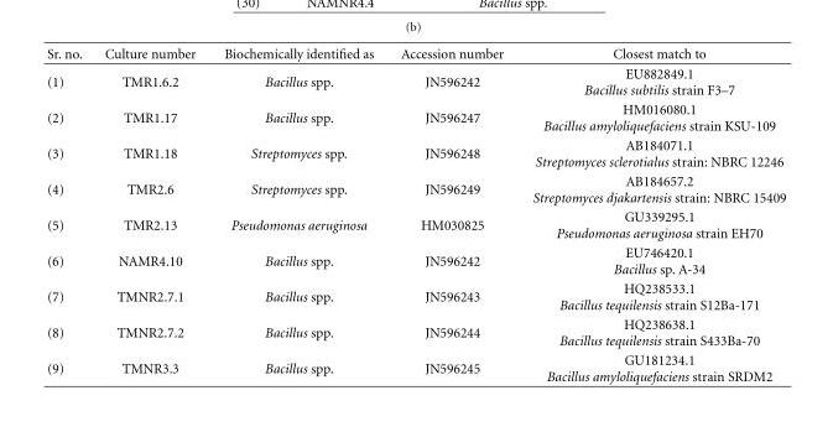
<table><thead><tr><td>Sr. no.</td><td>Culture number</td><td>Biochemically identified as</td><td>Accession number</td><td>Closest match to</td></tr></thead><tbody><tr><td>(1)</td><td>TMR1.6.2</td><td>Bacillus spp.</td><td>JN596242</td><td>EU882849.1 Bacillus subtilis strain F3–7</td></tr><tr><td>(2)</td><td>TMR1.17</td><td>Bacillus spp.</td><td>JN596247</td><td>HM016080.1 Bacillus amyloliquefaciens strain KSU-109</td></tr><tr><td>(3)</td><td>TMR1.18</td><td>Streptomyces spp.</td><td>JN596248</td><td>AB184071.1 Streptomyces sclerotialus strain: NBRC 12246</td></tr><tr><td>(4)</td><td>TMR2.6</td><td>Streptomyces spp.</td><td>JN596249</td><td>AB184657.2 Streptomyces djakartensis strain: NBRC 15409</td></tr><tr><td>(5)</td><td>TMR2.13</td><td>Pseudomonas aeruginosa</td><td>HM030825</td><td>GU339295.1 Pseudomonas aeruginosa strain EH70</td></tr><tr><td>(6)</td><td>NAMR4.10</td><td>Bacillus spp.</td><td>JN596242</td><td>EU746420.1 Bacillus sp. A-34</td></tr><tr><td>(7)</td><td>TMNR2.7.1</td><td>Bacillus spp.</td><td>JN596243</td><td>HQ238533.1 Bacillus tequilensis strain S12Ba-171</td></tr><tr><td>(8)</td><td>TMNR2.7.2</td><td>Bacillus spp.</td><td>JN596244</td><td>HQ238638.1 Bacillus tequilensis strain S433Ba-70</td></tr><tr><td>(9)</td><td>TMNR3.3</td><td>Bacillus spp.</td><td>JN596245</td><td>GU181234.1 Bacillus amyloliquefaciens strain SRDM2</td></tr></tbody></table>